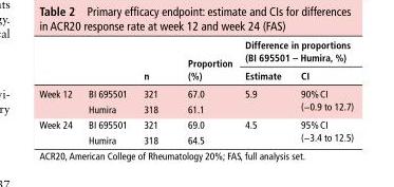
<table><thead><tr><td rowspan="2"></td><td rowspan="2"></td><td rowspan="2">n</td><td rowspan="2">Proportion (%)</td><td colspan="2">difference in proportions (bI 695501 – humira, %)</td></tr><tr><td>estimate</td><td>CI</td></tr></thead><tbody><tr><td rowspan="2">Week 12</td><td>BI 695501</td><td>321</td><td>67.0</td><td rowspan="2">5.9</td><td rowspan="2">90% CI (−0.9 to 12.7)</td></tr><tr><td>Humira</td><td>318</td><td>61.1</td></tr><tr><td rowspan="2">Week 24</td><td>BI 695501</td><td>321</td><td>69.0</td><td rowspan="2">4.5</td><td rowspan="2">95% CI (−3.4 to 12.5)</td></tr><tr><td>Humira</td><td>318</td><td>64.5</td></tr></tbody></table>